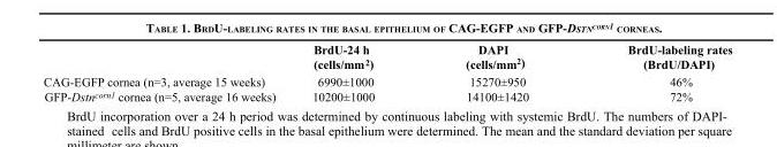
<table><thead><tr><td></td><td>BrdU-24 h (cells/mm<sup>2</sup>)</td><td>DAPI (cells/mm<sup>2</sup>)</td><td>BrdU-labeling rates (BrdU/DAPI)</td></tr></thead><tbody><tr><td>CAG-EGFP cornea (n=3, average 15 weeks)</td><td>6990±1000</td><td>15270±950</td><td>46%</td></tr><tr><td>GFP-Dstn<sup>corn1</sup> cornea (n=5, average 16 weeks)</td><td>10200±1000</td><td>14100±1420</td><td>72%</td></tr></tbody></table>